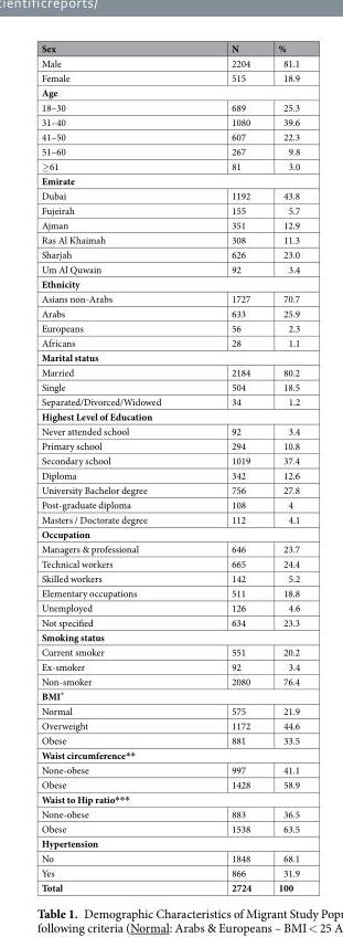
<table><thead><tr><td>Sex</td><td>N</td><td>%</td></tr></thead><tbody><tr><td>Male</td><td>2204</td><td>81.1</td></tr><tr><td>Female</td><td>515</td><td>18.9</td></tr><tr><td colspan="3">Age</td></tr><tr><td>18–30</td><td>689</td><td>25.3</td></tr><tr><td>31–40</td><td>1080</td><td>39.6</td></tr><tr><td>41–50</td><td>607</td><td>22.3</td></tr><tr><td>51–60</td><td>267</td><td>9.8</td></tr><tr><td>≥61</td><td>81</td><td>3.0</td></tr><tr><td colspan="3">Emirate</td></tr><tr><td>Dubai</td><td>1192</td><td>43.8</td></tr><tr><td>Fujeirah</td><td>155</td><td>5.7</td></tr><tr><td>Ajman</td><td>351</td><td>12.9</td></tr><tr><td>Ras Al Khaimah</td><td>308</td><td>11.3</td></tr><tr><td>Sharjah</td><td>626</td><td>23.0</td></tr><tr><td>Um Al Quwain</td><td>92</td><td>3.4</td></tr><tr><td colspan="3">Ethnicity</td></tr><tr><td>Asians non-Arabs</td><td>1727</td><td>70.7</td></tr><tr><td>Arabs</td><td>633</td><td>25.9</td></tr><tr><td>Europeans</td><td>56</td><td>2.3</td></tr><tr><td>Africans</td><td>28</td><td>1.1</td></tr><tr><td colspan="3">Marital status</td></tr><tr><td>Married</td><td>2184</td><td>80.2</td></tr><tr><td>Single</td><td>504</td><td>18.5</td></tr><tr><td>Separated/Divorced/Widowed</td><td>34</td><td>1.2</td></tr><tr><td colspan="3">Highest Level of Education</td></tr><tr><td>Never attended school</td><td>92</td><td>3.4</td></tr><tr><td>Primary school</td><td>294</td><td>10.8</td></tr><tr><td>Secondary school</td><td>1019</td><td>37.4</td></tr><tr><td>Diploma</td><td>342</td><td>12.6</td></tr><tr><td>University Bachelor degree</td><td>756</td><td>27.8</td></tr><tr><td>Post-graduate diploma</td><td>108</td><td>4</td></tr><tr><td>Masters / Doctorate degree</td><td>112</td><td>4.1</td></tr><tr><td colspan="3">Occupation</td></tr><tr><td>Managers &amp; professional</td><td>646</td><td>23.7</td></tr><tr><td>Technical workers</td><td>665</td><td>24.4</td></tr><tr><td>Skilled workers</td><td>142</td><td>5.2</td></tr><tr><td>Elementary occupations</td><td>511</td><td>18.8</td></tr><tr><td>Unemployed</td><td>126</td><td>4.6</td></tr><tr><td>Not specified</td><td>634</td><td>23.3</td></tr><tr><td colspan="3">Smoking status</td></tr><tr><td>Current smoker</td><td>551</td><td>20.2</td></tr><tr><td>Ex-smoker</td><td>92</td><td>3.4</td></tr><tr><td>Non-smoker</td><td>2080</td><td>76.4</td></tr><tr><td colspan="3">BMI*</td></tr><tr><td>Normal</td><td>575</td><td>21.9</td></tr><tr><td>Overweight</td><td>1172</td><td>44.6</td></tr><tr><td>Obese</td><td>881</td><td>33.5</td></tr><tr><td colspan="3">Waist circumference**</td></tr><tr><td>None-obese</td><td>997</td><td>41.1</td></tr><tr><td>Obese</td><td>1428</td><td>58.9</td></tr><tr><td colspan="3">Waist to Hip ratio***</td></tr><tr><td>None-obese</td><td>883</td><td>36.5</td></tr><tr><td>Obese</td><td>1538</td><td>63.5</td></tr><tr><td colspan="3">Hypertension</td></tr><tr><td>No</td><td>1848</td><td>68.1</td></tr><tr><td>Yes</td><td>866</td><td>31.9</td></tr><tr><td>Total</td><td>2724</td><td>100</td></tr></tbody></table>